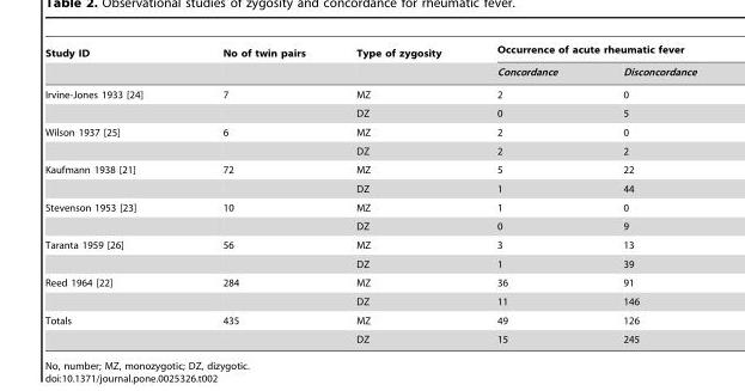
<table><thead><tr><td rowspan="2">Study ID</td><td rowspan="2">No of twin pairs</td><td rowspan="2">Type of zygosity</td><td colspan="2">Occurrence of acute rheumatic fever</td></tr><tr><td>Concordance</td><td>Disconcordance</td></tr></thead><tbody><tr><td rowspan="2">Irvine-Jones 1933 [24]</td><td>7</td><td>MZ</td><td>2</td><td>0</td></tr><tr><td></td><td>DZ</td><td>0</td><td>5</td></tr><tr><td rowspan="2">Wilson 1937 [25]</td><td>6</td><td>MZ</td><td>2</td><td>0</td></tr><tr><td></td><td>DZ</td><td>2</td><td>2</td></tr><tr><td rowspan="2">Kaufmann 1938 [21]</td><td>72</td><td>MZ</td><td>5</td><td>22</td></tr><tr><td></td><td>DZ</td><td>1</td><td>44</td></tr><tr><td rowspan="2">Stevenson 1953 [23]</td><td>10</td><td>MZ</td><td>1</td><td>0</td></tr><tr><td></td><td>DZ</td><td>0</td><td>9</td></tr><tr><td rowspan="2">Taranta 1959 [26]</td><td>56</td><td>MZ</td><td>3</td><td>13</td></tr><tr><td></td><td>DZ</td><td>1</td><td>39</td></tr><tr><td rowspan="2">Reed 1964 [22]</td><td>284</td><td>MZ</td><td>36</td><td>91</td></tr><tr><td></td><td>DZ</td><td>11</td><td>146</td></tr><tr><td rowspan="2">Totals</td><td>435</td><td>MZ</td><td>49</td><td>126</td></tr><tr><td></td><td>DZ</td><td>15</td><td>245</td></tr></tbody></table>